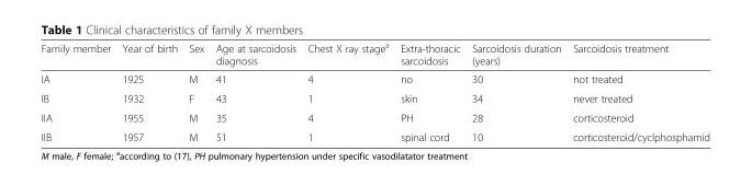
<table><thead><tr><td>Family member</td><td>Year of birth</td><td>Sex</td><td>Age at sarcoidosis diagnosis</td><td>Chest X ray stage<sup>a</sup></td><td>Extra-thoracic sarcoidosis</td><td>Sarcoidosis duration (years)</td><td>Sarcoidosis treatment</td></tr></thead><tbody><tr><td>IA</td><td>1925</td><td>M</td><td>41</td><td>4</td><td>no</td><td>30</td><td>not treated</td></tr><tr><td>IB</td><td>1932</td><td>F</td><td>43</td><td>1</td><td>skin</td><td>34</td><td>never treated</td></tr><tr><td>IIA</td><td>1955</td><td>M</td><td>35</td><td>4</td><td>PH</td><td>28</td><td>corticosteroid</td></tr><tr><td>IIB</td><td>1957</td><td>M</td><td>51</td><td>1</td><td>spinal cord</td><td>10</td><td>corticosteroid/cyclphosphamid</td></tr></tbody></table>